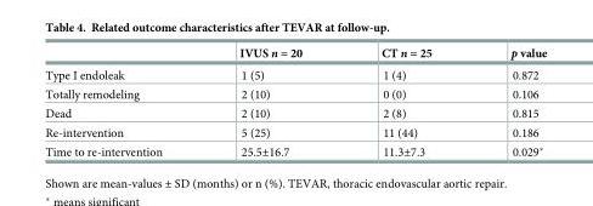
<table><thead><tr><td></td><td>IVUS n = 20</td><td>CT n = 25</td><td>p value</td></tr></thead><tbody><tr><td>Type I endoleak</td><td>1 (5)</td><td>1 (4)</td><td>0.872</td></tr><tr><td>Totally remodeling</td><td>2 (10)</td><td>0 (0)</td><td>0.106</td></tr><tr><td>Dead</td><td>2 (10)</td><td>2 (8)</td><td>0.815</td></tr><tr><td>Re-intervention</td><td>5 (25)</td><td>11 (44)</td><td>0.186</td></tr><tr><td>Time to re-intervention</td><td>25.5±16.7</td><td>11.3±7.3</td><td>0.029*</td></tr></tbody></table>